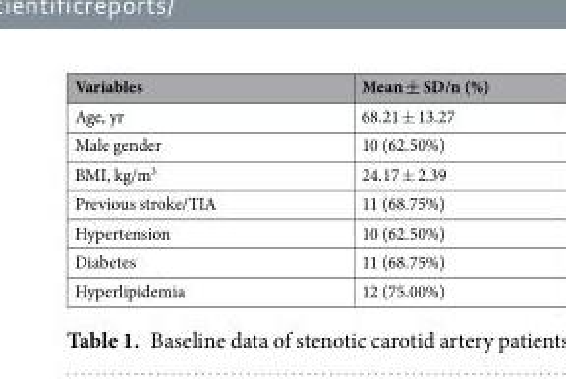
<table><thead><tr><td>Variables</td><td>Mean ± SD/n (%)</td></tr></thead><tbody><tr><td>Age, yr</td><td>68.21 ± 13.27</td></tr><tr><td>Male gender</td><td>10 (62.50%)</td></tr><tr><td>BMI, kg/m<sup>3</sup></td><td>24.17 ± 2.39</td></tr><tr><td>Previous stroke/TIA</td><td>11 (68.75%)</td></tr><tr><td>Hypertension</td><td>10 (62.50%)</td></tr><tr><td>Diabetes</td><td>11 (68.75%)</td></tr><tr><td>Hyperlipidemia</td><td>12 (75.00%)</td></tr></tbody></table>